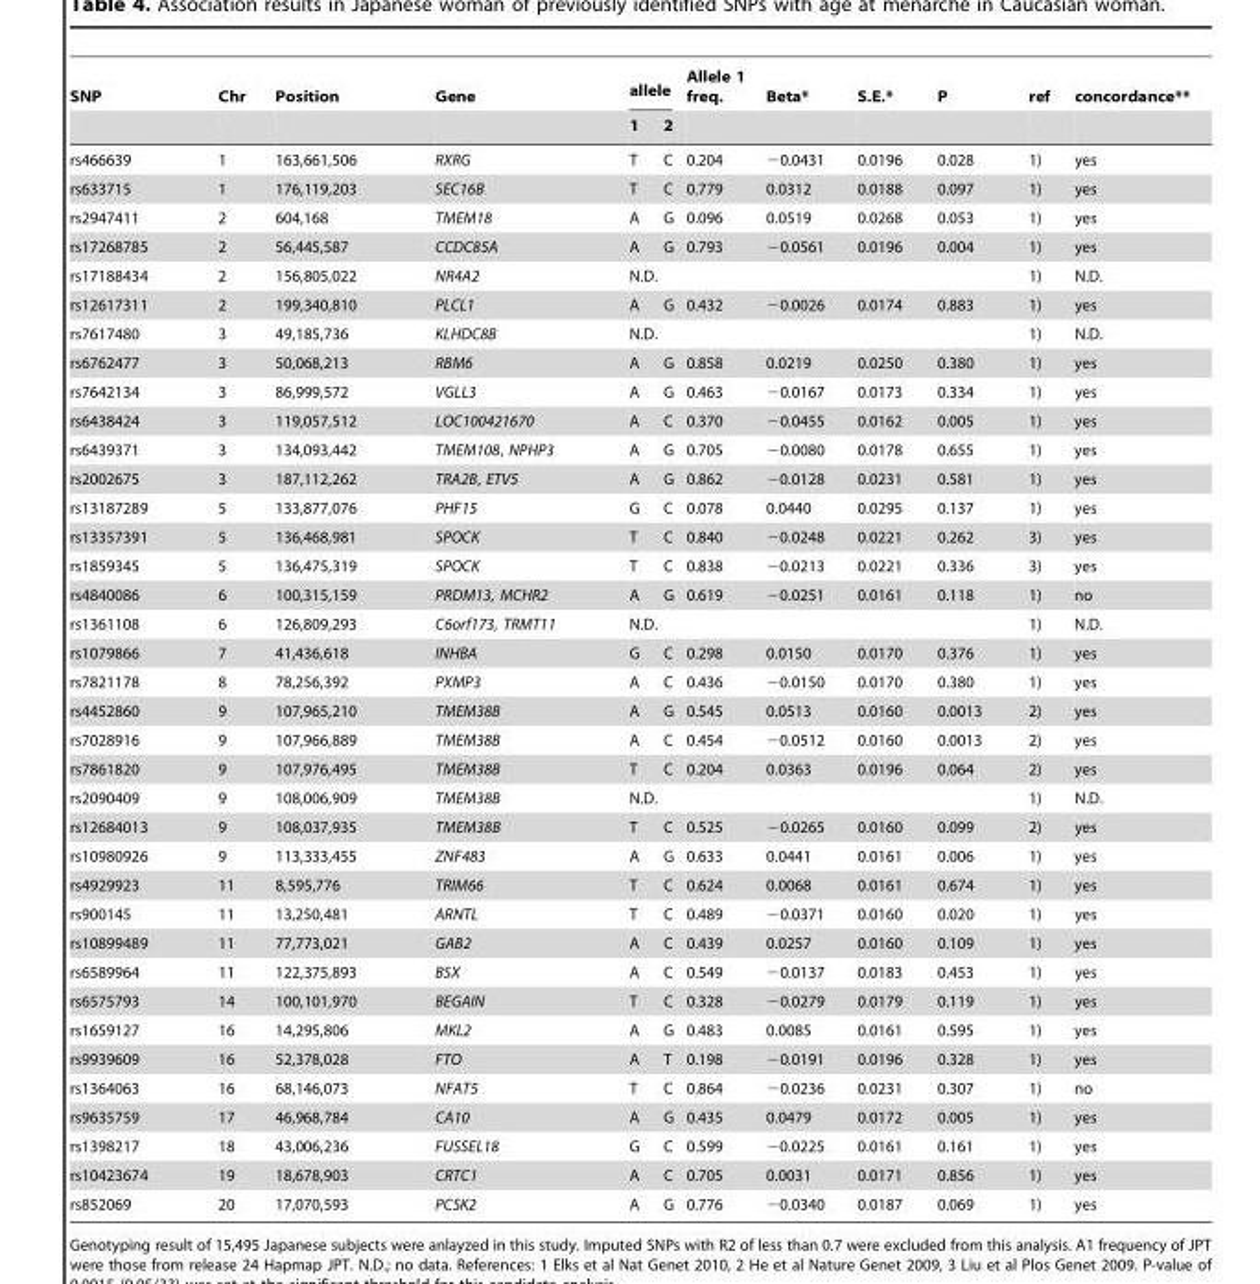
<table><thead><tr><td rowspan="2">SNP</td><td rowspan="2">Chr</td><td rowspan="2">Position</td><td rowspan="2">Gene</td><td colspan="2">allele</td><td rowspan="2">Allele 1 freq.</td><td rowspan="2">Beta*</td><td rowspan="2">S.E.*</td><td rowspan="2">P</td><td rowspan="2">ref</td><td rowspan="2">concordance**</td></tr><tr><td>1</td><td>2</td></tr></thead><tbody><tr><td>rs466639</td><td>1</td><td>163,661,506</td><td>RXRG</td><td>T</td><td>C</td><td>0.204</td><td>−0.0431</td><td>0.0196</td><td>0.028</td><td>1)</td><td>yes</td></tr><tr><td>rs633715</td><td>1</td><td>176,119,203</td><td>SEC16B</td><td>T</td><td>C</td><td>0.779</td><td>0.0312</td><td>0.0188</td><td>0.097</td><td>1)</td><td>yes</td></tr><tr><td>rs2947411</td><td>2</td><td>604,168</td><td>TMEM18</td><td>A</td><td>G</td><td>0.096</td><td>0.0519</td><td>0.0268</td><td>0.053</td><td>1)</td><td>yes</td></tr><tr><td>rs17268785</td><td>2</td><td>56,445,587</td><td>CCDC85A</td><td>A</td><td>G</td><td>0.793</td><td>−0.0561</td><td>0.0196</td><td>0.004</td><td>1)</td><td>yes</td></tr><tr><td>rs17188434</td><td>2</td><td>156,805,022</td><td>NR4A2</td><td>N.D.</td><td></td><td></td><td></td><td></td><td></td><td>1)</td><td>N.D.</td></tr><tr><td>rs12617311</td><td>2</td><td>199,340,810</td><td>PLCL1</td><td>A</td><td>G</td><td>0.432</td><td>−0.0026</td><td>0.0174</td><td>0.883</td><td>1)</td><td>yes</td></tr><tr><td>rs7617480</td><td>3</td><td>49,185,736</td><td>KLHDC8B</td><td>N.D.</td><td></td><td></td><td></td><td></td><td></td><td>1)</td><td>N.D.</td></tr><tr><td>rs6762477</td><td>3</td><td>50,068,213</td><td>RBM6</td><td>A</td><td>G</td><td>0.858</td><td>0.0219</td><td>0.0250</td><td>0.380</td><td>1)</td><td>yes</td></tr><tr><td>rs7642134</td><td>3</td><td>86,999,572</td><td>VGLL3</td><td>A</td><td>G</td><td>0.463</td><td>−0.0167</td><td>0.0173</td><td>0.334</td><td>1)</td><td>yes</td></tr><tr><td>rs6438424</td><td>3</td><td>119,057,512</td><td>LOC100421670</td><td>A</td><td>C</td><td>0.370</td><td>−0.0455</td><td>0.0162</td><td>0.005</td><td>1)</td><td>yes</td></tr><tr><td>rs6439371</td><td>3</td><td>134,093,442</td><td>TMEM108, NPHP3</td><td>A</td><td>G</td><td>0.705</td><td>−0.0080</td><td>0.0178</td><td>0.655</td><td>1)</td><td>yes</td></tr><tr><td>rs2002675</td><td>3</td><td>187,112,262</td><td>TRA2B, ETV5</td><td>A</td><td>G</td><td>0.862</td><td>−0.0128</td><td>0.0231</td><td>0.581</td><td>1)</td><td>yes</td></tr><tr><td>rs13187289</td><td>5</td><td>133,877,076</td><td>PHF15</td><td>G</td><td>C</td><td>0.078</td><td>0.0440</td><td>0.0295</td><td>0.137</td><td>1)</td><td>yes</td></tr><tr><td>rs13357391</td><td>5</td><td>136,468,981</td><td>SPOCK</td><td>T</td><td>C</td><td>0.840</td><td>−0.0248</td><td>0.0221</td><td>0.262</td><td>3)</td><td>yes</td></tr><tr><td>rs1859345</td><td>5</td><td>136,475,319</td><td>SPOCK</td><td>T</td><td>C</td><td>0.838</td><td>−0.0213</td><td>0.0221</td><td>0.336</td><td>3)</td><td>yes</td></tr><tr><td>rs4840086</td><td>6</td><td>100,315,159</td><td>PRDM13, MCHR2</td><td>A</td><td>G</td><td>0.619</td><td>−0.0251</td><td>0.0161</td><td>0.118</td><td>1)</td><td>no</td></tr><tr><td>rs1361108</td><td>6</td><td>126,809,293</td><td>C6orf173, TRMT11</td><td>N.D.</td><td></td><td></td><td></td><td></td><td></td><td>1)</td><td>N.D.</td></tr><tr><td>rs1079866</td><td>7</td><td>41,436,618</td><td>INHBA</td><td>G</td><td>C</td><td>0.298</td><td>0.0150</td><td>0.0170</td><td>0.376</td><td>1)</td><td>yes</td></tr><tr><td>rs7821178</td><td>8</td><td>78,256,392</td><td>PXMP3</td><td>A</td><td>C</td><td>0.436</td><td>−0.0150</td><td>0.0170</td><td>0.380</td><td>1)</td><td>yes</td></tr><tr><td>rs4452860</td><td>9</td><td>107,965,210</td><td>TMEM38B</td><td>A</td><td>G</td><td>0.545</td><td>0.0513</td><td>0.0160</td><td>0.0013</td><td>2)</td><td>yes</td></tr><tr><td>rs7028916</td><td>9</td><td>107,966,889</td><td>TMEM38B</td><td>A</td><td>C</td><td>0.454</td><td>−0.0512</td><td>0.0160</td><td>0.0013</td><td>2)</td><td>yes</td></tr><tr><td>rs7861820</td><td>9</td><td>107,976,495</td><td>TMEM38B</td><td>T</td><td>C</td><td>0.204</td><td>0.0363</td><td>0.0196</td><td>0.064</td><td>2)</td><td>yes</td></tr><tr><td>rs2090409</td><td>9</td><td>108,006,909</td><td>TMEM38B</td><td>N.D.</td><td></td><td></td><td></td><td></td><td></td><td>1)</td><td>N.D.</td></tr><tr><td>rs12684013</td><td>9</td><td>108,037,935</td><td>TMEM38B</td><td>T</td><td>C</td><td>0.525</td><td>−0.0265</td><td>0.0160</td><td>0.099</td><td>2)</td><td>yes</td></tr><tr><td>rs10980926</td><td>9</td><td>113,333,455</td><td>ZNF483</td><td>A</td><td>G</td><td>0.633</td><td>0.0441</td><td>0.0161</td><td>0.006</td><td>1)</td><td>yes</td></tr><tr><td>rs4929923</td><td>11</td><td>8,595,776</td><td>TRIM66</td><td>T</td><td>C</td><td>0.624</td><td>0.0068</td><td>0.0161</td><td>0.674</td><td>1)</td><td>yes</td></tr><tr><td>rs900145</td><td>11</td><td>13,250,481</td><td>ARNTL</td><td>T</td><td>C</td><td>0.489</td><td>−0.0371</td><td>0.0160</td><td>0.020</td><td>1)</td><td>yes</td></tr><tr><td>rs10899489</td><td>11</td><td>77,773,021</td><td>GAB2</td><td>A</td><td>C</td><td>0.439</td><td>0.0257</td><td>0.0160</td><td>0.109</td><td>1)</td><td>yes</td></tr><tr><td>rs6589964</td><td>11</td><td>122,375,893</td><td>BSX</td><td>A</td><td>C</td><td>0.549</td><td>−0.0137</td><td>0.0183</td><td>0.453</td><td>1)</td><td>yes</td></tr><tr><td>rs6575793</td><td>14</td><td>100,101,970</td><td>BEGAIN</td><td>T</td><td>C</td><td>0.328</td><td>−0.0279</td><td>0.0179</td><td>0.119</td><td>1)</td><td>yes</td></tr><tr><td>rs1659127</td><td>16</td><td>14,295,806</td><td>MKL2</td><td>A</td><td>G</td><td>0.483</td><td>0.0085</td><td>0.0161</td><td>0.595</td><td>1)</td><td>yes</td></tr><tr><td>rs9939609</td><td>16</td><td>52,378,028</td><td>FTO</td><td>A</td><td>T</td><td>0.198</td><td>−0.0191</td><td>0.0196</td><td>0.328</td><td>1)</td><td>yes</td></tr><tr><td>rs1364063</td><td>16</td><td>68,146,073</td><td>NFAT5</td><td>T</td><td>C</td><td>0.864</td><td>−0.0236</td><td>0.0231</td><td>0.307</td><td>1)</td><td>no</td></tr><tr><td>rs9635759</td><td>17</td><td>46,968,784</td><td>CA10</td><td>A</td><td>G</td><td>0.435</td><td>0.0479</td><td>0.0172</td><td>0.005</td><td>1)</td><td>yes</td></tr><tr><td>rs1398217</td><td>18</td><td>43,006,236</td><td>FUSSEL18</td><td>G</td><td>C</td><td>0.599</td><td>−0.0225</td><td>0.0161</td><td>0.161</td><td>1)</td><td>yes</td></tr><tr><td>rs10423674</td><td>19</td><td>18,678,903</td><td>CRTC1</td><td>A</td><td>C</td><td>0.705</td><td>0.0031</td><td>0.0171</td><td>0.856</td><td>1)</td><td>yes</td></tr><tr><td>rs852069</td><td>20</td><td>17,070,593</td><td>PCSK2</td><td>A</td><td>G</td><td>0.776</td><td>−0.0340</td><td>0.0187</td><td>0.069</td><td>1)</td><td>yes</td></tr></tbody></table>